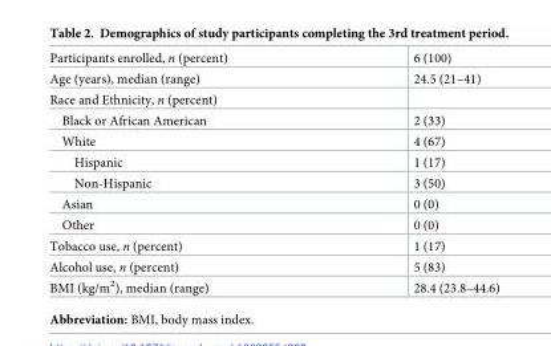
<table><tbody><tr><td>Participants enrolled, n (percent)</td><td>6 (100)</td></tr><tr><td>Age (years), median (range)</td><td>24.5 (21–41)</td></tr><tr><td colspan="2">Race and Ethnicity, n (percent)</td></tr><tr><td>Black or African American</td><td>2 (33)</td></tr><tr><td>White</td><td>4 (67)</td></tr><tr><td>Hispanic</td><td>1 (17)</td></tr><tr><td>Non-Hispanic</td><td>3 (50)</td></tr><tr><td>Asian</td><td>0 (0)</td></tr><tr><td>Other</td><td>0 (0)</td></tr><tr><td>Tobacco use, n (percent)</td><td>1 (17)</td></tr><tr><td>Alcohol use, n (percent)</td><td>5 (83)</td></tr><tr><td>BMI (kg/m<sup>2</sup>), median (range)</td><td>28.4 (23.8–44.6)</td></tr></tbody></table>